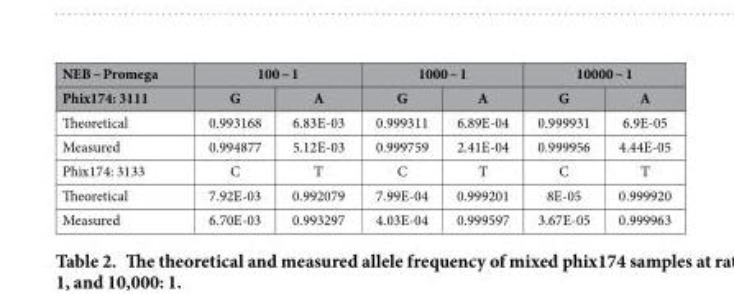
<table><thead><tr><td rowspan="2">NEB ~ Promega Phix174: 3111</td><td colspan="2">100 ~ 1</td><td colspan="2">1000 ~ 1</td><td colspan="2">10000 ~ 1</td></tr><tr><td>G</td><td>A</td><td>G</td><td>A</td><td>G</td><td>A</td></tr></thead><tbody><tr><td>Theoretical</td><td>0.993168</td><td>6.83E-03</td><td>0.999311</td><td>6.89E-04</td><td>0.999931</td><td>6.9E-05</td></tr><tr><td>Measured</td><td>0.994877</td><td>5.12E-03</td><td>0.999759</td><td>2.41E-04</td><td>0.999956</td><td>4.44E-05</td></tr><tr><td>Phix174: 3133</td><td>C</td><td>T</td><td>C</td><td>T</td><td>C</td><td>T</td></tr><tr><td>Theoretical</td><td>7.92E-03</td><td>0.992079</td><td>7.99E-04</td><td>0.999201</td><td>8E-05</td><td>0.999920</td></tr><tr><td>Measured</td><td>6.70E-03</td><td>0.993297</td><td>4.03E-04</td><td>0.999597</td><td>3.67E-05</td><td>0.999963</td></tr></tbody></table>